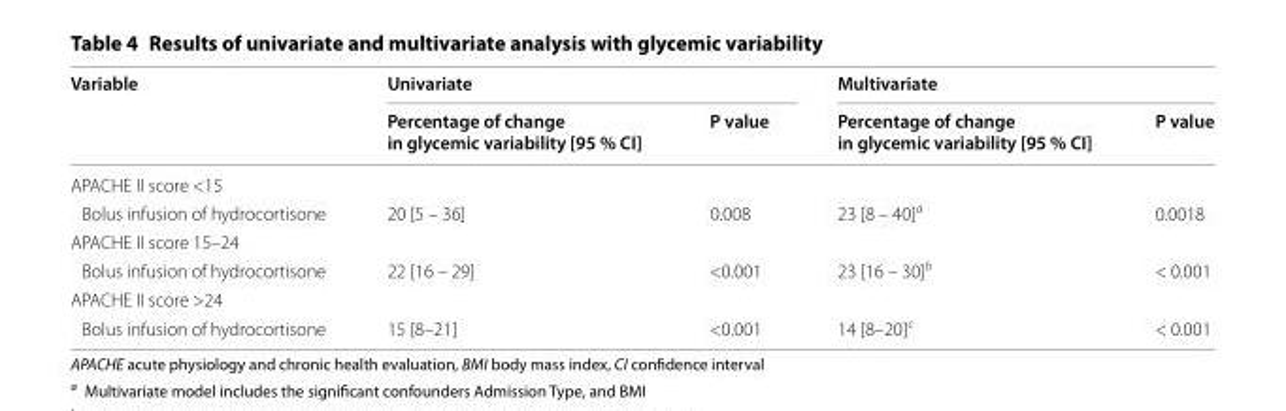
<table><thead><tr><td rowspan="2">Variable</td><td colspan="2">Univariate</td><td colspan="2">Multivariate</td></tr><tr><td>Percentage of change in glycemic variability [95 % CI]</td><td>P value</td><td>Percentage of change in glycemic variability [95 % CI]</td><td>P value</td></tr></thead><tbody><tr><td colspan="5">APACHE II score &lt;15</td></tr><tr><td>Bolus infusion of hydrocortisone</td><td>20 [5 – 36]</td><td>0.008</td><td>23 [8 – 40]<sup>a</sup></td><td>0.0018</td></tr><tr><td colspan="5">APACHE II score 15–24</td></tr><tr><td>Bolus infusion of hydrocortisone</td><td>22 [16 – 29]</td><td>&lt;0.001</td><td>23 [16 – 30]<sup>b</sup></td><td>&lt; 0.001</td></tr><tr><td colspan="5">APACHE II score &gt;24</td></tr><tr><td>Bolus infusion of hydrocortisone</td><td>15 [8–21]</td><td>&lt;0.001</td><td>14 [8–20]<sup>c</sup></td><td>&lt; 0.001</td></tr></tbody></table>